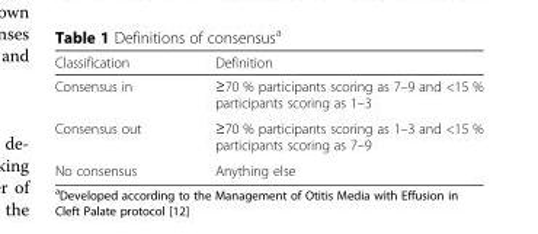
<table><thead><tr><td>Classification</td><td>Definition</td></tr></thead><tbody><tr><td>Consensus in</td><td>≥70 % participants scoring as 7–9 and &lt;15 % participants scoring as 1–3</td></tr><tr><td>Consensus out</td><td>≥70 % participants scoring as 1–3 and &lt;15 % participants scoring as 7–9</td></tr><tr><td>No consensus</td><td>Anything else</td></tr></tbody></table>